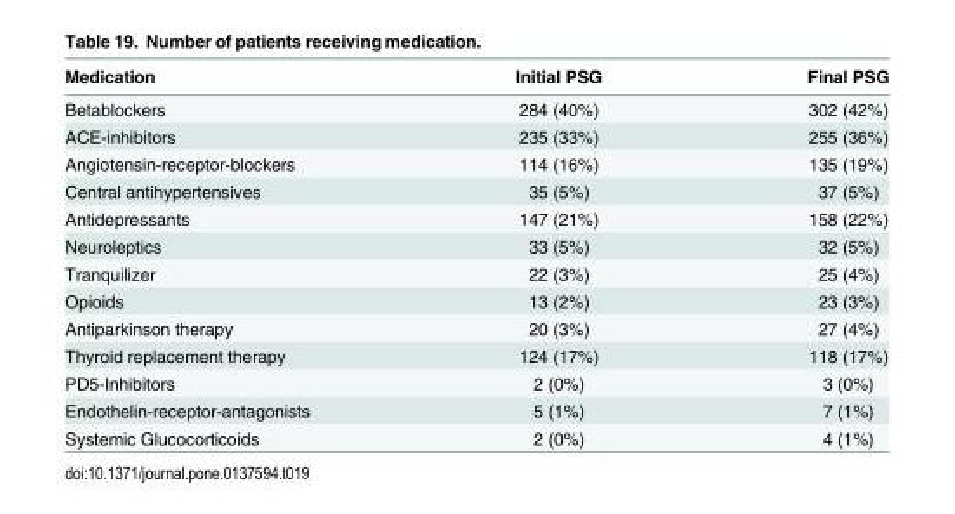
<table><thead><tr><td>Medication</td><td>Initial PSG</td><td>Final PSG</td></tr></thead><tbody><tr><td>Betablockers</td><td>284 (40%)</td><td>302 (42%)</td></tr><tr><td>ACE-inhibitors</td><td>235 (33%)</td><td>255 (36%)</td></tr><tr><td>Angiotensin-receptor-blockers</td><td>114 (16%)</td><td>135 (19%)</td></tr><tr><td>Central antihypertensives</td><td>35 (5%)</td><td>37 (5%)</td></tr><tr><td>Antidepressants</td><td>147 (21%)</td><td>158 (22%)</td></tr><tr><td>Neuroleptics</td><td>33 (5%)</td><td>32 (5%)</td></tr><tr><td>Tranquilizer</td><td>22 (3%)</td><td>25 (4%)</td></tr><tr><td>Opioids</td><td>13 (2%)</td><td>23 (3%)</td></tr><tr><td>Antiparkinson therapy</td><td>20 (3%)</td><td>27 (4%)</td></tr><tr><td>Thyroid replacement therapy</td><td>124 (17%)</td><td>118 (17%)</td></tr><tr><td>PD5-Inhibitors</td><td>2 (0%)</td><td>3 (0%)</td></tr><tr><td>Endothelin-receptor-antagonists</td><td>5 (1%)</td><td>7 (1%)</td></tr><tr><td>Systemic Glucocorticoids</td><td>2 (0%)</td><td>4 (1%)</td></tr></tbody></table>